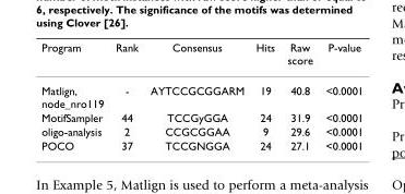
<table><thead><tr><td>Program</td><td>Rank</td><td>Consensus</td><td>Hits</td><td>Raw score</td><td>P-value</td></tr></thead><tbody><tr><td>Matlign, node_nro119</td><td>-</td><td>AYTCCGCGGARM</td><td>19</td><td>40.8</td><td>&lt;0.0001</td></tr><tr><td>MotifSampler</td><td>44</td><td>TCCGyGGA</td><td>24</td><td>31.9</td><td>&lt;0.0001</td></tr><tr><td>oligo-analysis</td><td>2</td><td>CCGCGGAA</td><td>9</td><td>29.6</td><td>&lt;0.0001</td></tr><tr><td>POCO</td><td>37</td><td>TCCGNGGA</td><td>24</td><td>27.1</td><td>&lt;0.0001</td></tr></tbody></table>